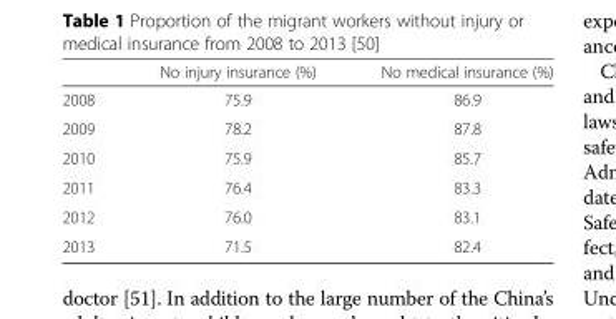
<table><thead><tr><td></td><td>No injury insurance (%)</td><td>No medical insurance (%)</td></tr></thead><tbody><tr><td>2008</td><td>75.9</td><td>86.9</td></tr><tr><td>2009</td><td>78.2</td><td>87.8</td></tr><tr><td>2010</td><td>75.9</td><td>85.7</td></tr><tr><td>2011</td><td>76.4</td><td>83.3</td></tr><tr><td>2012</td><td>76.0</td><td>83.1</td></tr><tr><td>2013</td><td>71.5</td><td>82.4</td></tr></tbody></table>